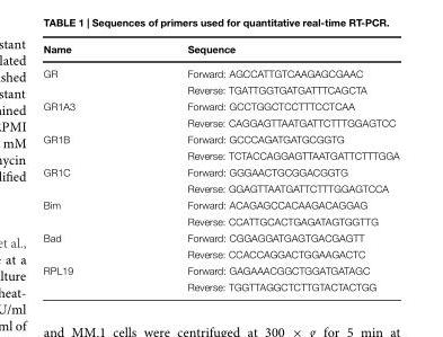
<table><thead><tr><td>Name</td><td>Sequence</td></tr></thead><tbody><tr><td rowspan="2">GR</td><td>Forward: AGCCATTGTCAAGAGCGAAC</td></tr><tr><td>Reverse: TGATTGGTGATGATTTCAGCTA</td></tr><tr><td rowspan="2">GR1A3</td><td>Forward: GCCTGGCTCCTTTCCTCAA</td></tr><tr><td>Reverse: CAGGAGTTAATGATTCTTTGGAGTCC</td></tr><tr><td rowspan="2">GR1B</td><td>Forward: GCCCAGATGATGCGGTG</td></tr><tr><td>Reverse: TCTACCAGGAGTTAATGATTCTTTGGA</td></tr><tr><td rowspan="2">GR1C</td><td>Forward: GGGAACTGCGGACGGTG</td></tr><tr><td>Reverse: GGAGTTAATGATTCTTTGGAGTCCA</td></tr><tr><td rowspan="2">Bim</td><td>Forward: ACAGAGCCACAAGACAGGAG</td></tr><tr><td>Reverse: CCATTGCACTGAGATAGTGGTTG</td></tr><tr><td rowspan="2">Bad</td><td>Forward: CGGAGGATGAGTGACGAGTT</td></tr><tr><td>Reverse: CCACCAGGACTGGAAGACTC</td></tr><tr><td rowspan="2">RPL19</td><td>Forward: GAGAAACGGCTGGATGATAGC</td></tr><tr><td>Reverse: TGGTTAGGCTCTTGTACTACTGG</td></tr></tbody></table>